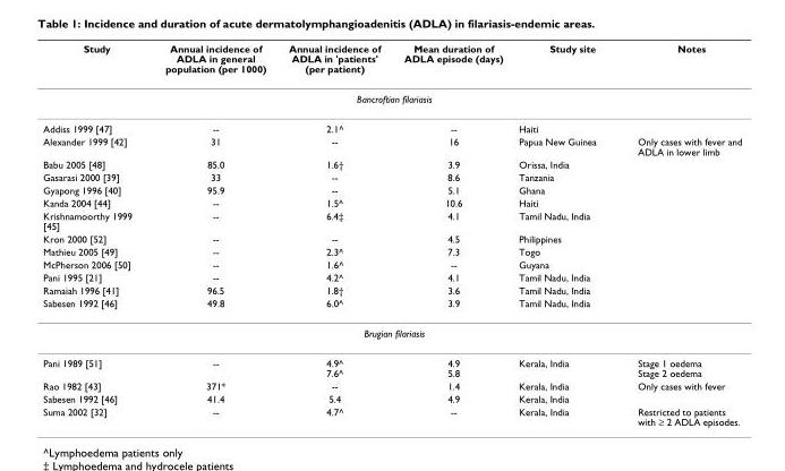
<table><thead><tr><td>Study</td><td>Annual incidence of ADLA in general population (per 1000)</td><td>Annual incidence of ADLA in &#x27;patients&#x27; (per patient)</td><td>Mean duration of ADLA episode (days)</td><td>Study site</td><td>Notes</td></tr></thead><tbody><tr><td colspan="6">Bancroftian filariasis</td></tr><tr><td>Addiss 1999 [47]</td><td>--</td><td>2.1^</td><td>--</td><td>Haiti</td><td></td></tr><tr><td>Alexander 1999 [42]</td><td>31</td><td>--</td><td>16</td><td>Papua New Guinea</td><td>Only cases with fever and ADLA in lower limb</td></tr><tr><td>Babu 2005 [48]</td><td>85.0</td><td>1.6†</td><td>3.9</td><td>Orissa, India</td><td></td></tr><tr><td>Gasarasi 2000 [39]</td><td>33</td><td>--</td><td>8.6</td><td>Tanzania</td><td></td></tr><tr><td>Gyapong 1996 [40]</td><td>95.9</td><td>--</td><td>5.1</td><td>Ghana</td><td></td></tr><tr><td>Kanda 2004 [44]</td><td>--</td><td>1.5^</td><td>10.6</td><td>Haiti</td><td></td></tr><tr><td>Krishnamoorthy 1999 [45]</td><td>--</td><td>6.4‡</td><td>4.1</td><td>Tamil Nadu, India</td><td></td></tr><tr><td>Kron 2000 [52]</td><td>--</td><td>--</td><td>4.5</td><td>Philippines</td><td></td></tr><tr><td>Mathieu 2005 [49]</td><td>--</td><td>2.3^</td><td>7.3</td><td>Togo</td><td></td></tr><tr><td>McPherson 2006 [50]</td><td>--</td><td>1.6^</td><td>--</td><td>Guyana</td><td></td></tr><tr><td>Pani 1995 [21]</td><td>--</td><td>4.2^</td><td>4.1</td><td>Tamil Nadu, India</td><td></td></tr><tr><td>Ramaiah 1996 [41]</td><td>96.5</td><td>1.8†</td><td>3.6</td><td>Tamil Nadu, India</td><td></td></tr><tr><td>Sabesen 1992 [46]</td><td>49.8</td><td>6.0^</td><td>3.9</td><td>Tamil Nadu, India</td><td></td></tr><tr><td colspan="6">Brugian filariasis</td></tr><tr><td>Pani 1989 [51]</td><td>--</td><td>4.9^ 7.6^</td><td>4.9 5.8</td><td>Kerala, India</td><td>Stage 1 oedema Stage 2 oedema</td></tr><tr><td>Rao 1982 [43]</td><td>371*</td><td>--</td><td>1.4</td><td>Kerala, India</td><td>Only cases with fever</td></tr><tr><td>Sabesen 1992 [46]</td><td>41.4</td><td>5.4</td><td>4.9</td><td>Kerala, India</td><td></td></tr><tr><td>Suma 2002 [32]</td><td>--</td><td>4.7^</td><td>--</td><td>Kerala, India</td><td>Restricted to patients with ≥ 2 ADLA episodes.</td></tr></tbody></table>